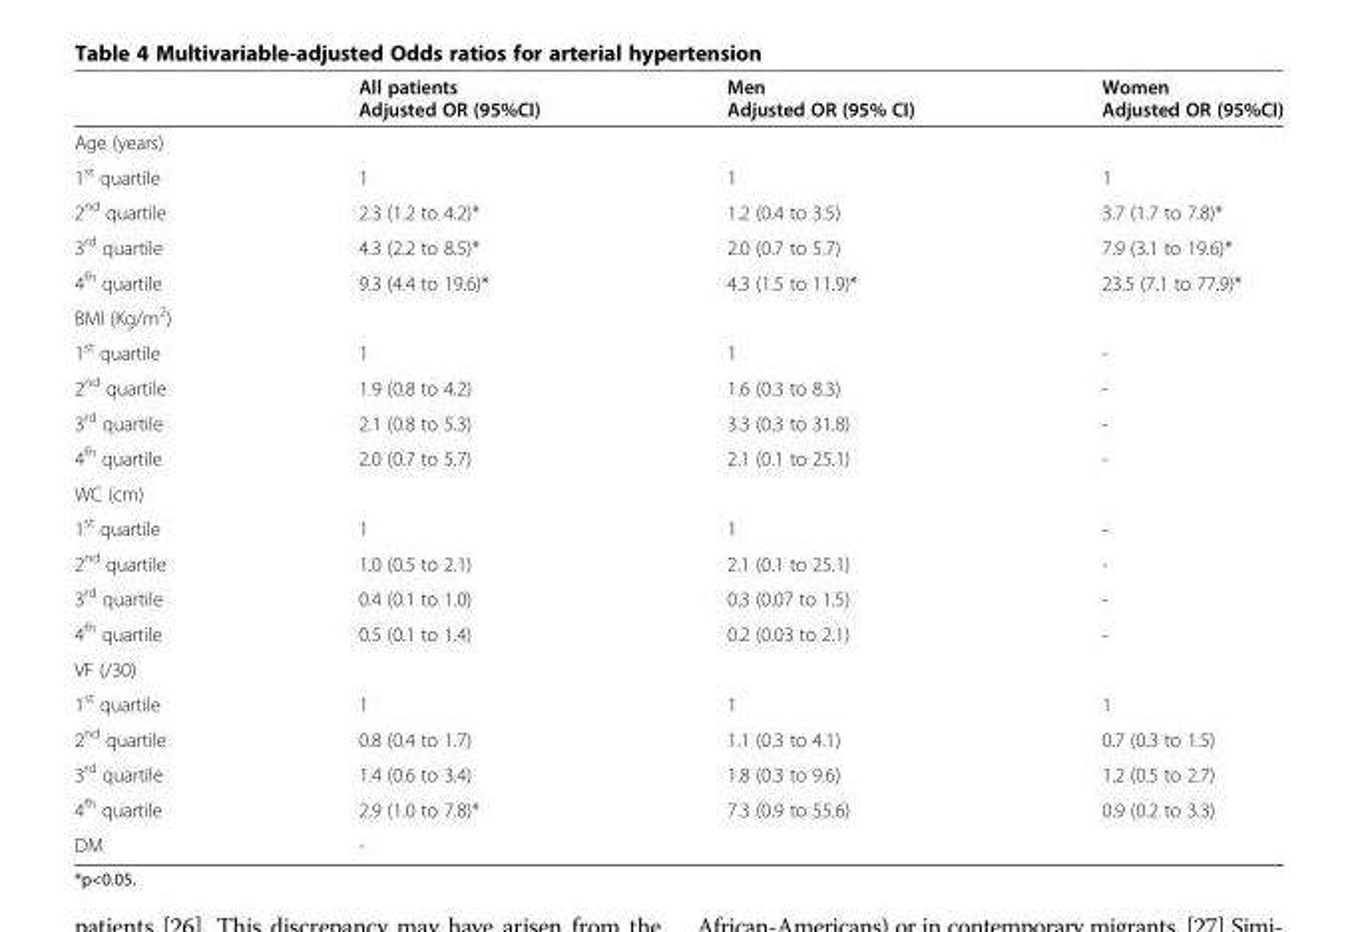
<table><thead><tr><td></td><td>All patients Adjusted OR (95%CI)</td><td>Men Adjusted OR (95% CI)</td><td>Women Adjusted OR (95%CI)</td></tr></thead><tbody><tr><td colspan="4">Age (years)</td></tr><tr><td>1<sup>st</sup> quartile</td><td>1</td><td>1</td><td>1</td></tr><tr><td>2<sup>nd</sup> quartile</td><td>2.3 (1.2 to 4.2)*</td><td>1.2 (0.4 to 3.5)</td><td>3.7 (1.7 to 7.8)*</td></tr><tr><td>3<sup>rd</sup> quartile</td><td>4.3 (2.2 to 8.5)*</td><td>2.0 (0.7 to 5.7)</td><td>7.9 (3.1 to 19.6)*</td></tr><tr><td>4<sup>fh</sup> quartile</td><td>9.3 (4.4 to 19.6)*</td><td>4.3 (1.5 to 11.9)*</td><td>23.5 (7.1 to 77.9)*</td></tr><tr><td colspan="4">BMI (Kg/m<sup>2</sup>)</td></tr><tr><td>1<sup>st</sup> quartile</td><td>1</td><td>1</td><td>-</td></tr><tr><td>2<sup>nd</sup> quartile</td><td>1.9 (0.8 to 4.2)</td><td>1.6 (0.3 to 8.3)</td><td>-</td></tr><tr><td>3<sup>rd</sup> quartile</td><td>2.1 (0.8 to 5.3)</td><td>3.3 (0.3 to 31.8)</td><td>-</td></tr><tr><td>4<sup>fh</sup> quartile</td><td>2.0 (0.7 to 5.7)</td><td>2.1 (0.1 to 25.1)</td><td>-</td></tr><tr><td colspan="4">WC (cm)</td></tr><tr><td>1<sup>st</sup> quartile</td><td>1</td><td>1</td><td>-</td></tr><tr><td>2<sup>nd</sup> quartile</td><td>1.0 (0.5 to 2.1)</td><td>2.1 (0.1 to 25.1)</td><td>-</td></tr><tr><td>3<sup>rd</sup> quartile</td><td>0.4 (0.1 to 1.0)</td><td>0.3 (0.07 to 1.5)</td><td>-</td></tr><tr><td>4<sup>fh</sup> quartile</td><td>0.5 (0.1 to 1.4)</td><td>0.2 (0.03 to 2.1)</td><td>-</td></tr><tr><td colspan="4">VF (/30)</td></tr><tr><td>1<sup>st</sup> quartile</td><td>1</td><td>1</td><td>1</td></tr><tr><td>2<sup>nd</sup> quartile</td><td>0.8 (0.4 to 1.7)</td><td>1.1 (0.3 to 4.1)</td><td>0.7 (0.3 to 1.5)</td></tr><tr><td>3<sup>rd</sup> quartile</td><td>1.4 (0.6 to 3.4)</td><td>1.8 (0.3 to 9.6)</td><td>1.2 (0.5 to 2.7)</td></tr><tr><td>4<sup>fh</sup> quartile</td><td>2.9 (1.0 to 7.8)*</td><td>7.3 (0.9 to 55.6)</td><td>0.9 (0.2 to 3.3)</td></tr><tr><td>DM</td><td>-</td><td></td><td></td></tr></tbody></table>